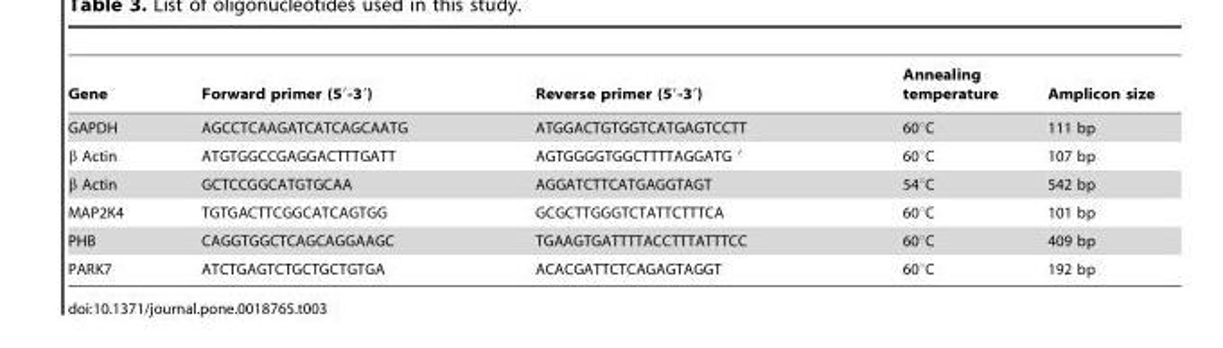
<table><thead><tr><td>Gene</td><td>Forward primer (5′-3′)</td><td>Reverse primer (5′-3′)</td><td>Annealing temperature</td><td>Amplicon size</td></tr></thead><tbody><tr><td>GAPDH</td><td>AGCCTCAAGATCATCAGCAATG</td><td>ATGGACTGTGGTCATGAGTCCTT</td><td>60°C</td><td>111 bp</td></tr><tr><td>β Actin</td><td>ATGTGGCCGAGGACTTTGATT</td><td>AGTGGGGTGGCTTTTAGGATG ′</td><td>60°C</td><td>107 bp</td></tr><tr><td>β Actin</td><td>GCTCCGGCATGTGCAA</td><td>AGGATCTTCATGAGGTAGT</td><td>54°C</td><td>542 bp</td></tr><tr><td>MAP2K4</td><td>TGTGACTTCGGCATCAGTGG</td><td>GCGCTTGGGTCTATTCTTTCA</td><td>60°C</td><td>101 bp</td></tr><tr><td>PHB</td><td>CAGGTGGCTCAGCAGGAAGC</td><td>TGAAGTGATTTTACCTTTATTTCC</td><td>60°C</td><td>409 bp</td></tr><tr><td>PARK7</td><td>ATCTGAGTCTGCTGCTGTGA</td><td>ACACGATTCTCAGAGTAGGT</td><td>60°C</td><td>192 bp</td></tr></tbody></table>